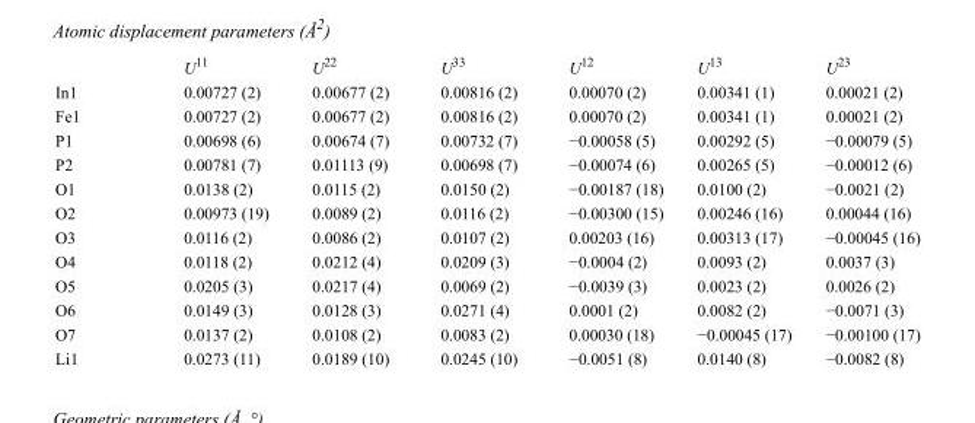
<table><thead><tr><td></td><td>U<sup>11</sup></td><td>U<sup>22</sup></td><td>U<sup>33</sup></td><td>U<sup>12</sup></td><td>U<sup>13</sup></td><td>U<sup>23</sup></td></tr></thead><tbody><tr><td>In1</td><td>0.00727 (2)</td><td>0.00677 (2)</td><td>0.00816 (2)</td><td>0.00070 (2)</td><td>0.00341 (1)</td><td>0.00021 (2)</td></tr><tr><td>Fe1</td><td>0.00727 (2)</td><td>0.00677 (2)</td><td>0.00816 (2)</td><td>0.00070 (2)</td><td>0.00341 (1)</td><td>0.00021 (2)</td></tr><tr><td>P1</td><td>0.00698 (6)</td><td>0.00674 (7)</td><td>0.00732 (7)</td><td>−0.00058 (5)</td><td>0.00292 (5)</td><td>−0.00079 (5)</td></tr><tr><td>P2</td><td>0.00781 (7)</td><td>0.01113 (9)</td><td>0.00698 (7)</td><td>−0.00074 (6)</td><td>0.00265 (5)</td><td>−0.00012 (6)</td></tr><tr><td>O1</td><td>0.0138 (2)</td><td>0.0115 (2)</td><td>0.0150 (2)</td><td>−0.00187 (18)</td><td>0.0100 (2)</td><td>−0.0021 (2)</td></tr><tr><td>O2</td><td>0.00973 (19)</td><td>0.0089 (2)</td><td>0.0116 (2)</td><td>−0.00300 (15)</td><td>0.00246 (16)</td><td>0.00044 (16)</td></tr><tr><td>O3</td><td>0.0116 (2)</td><td>0.0086 (2)</td><td>0.0107 (2)</td><td>0.00203 (16)</td><td>0.00313 (17)</td><td>−0.00045 (16)</td></tr><tr><td>O4</td><td>0.0118 (2)</td><td>0.0212 (4)</td><td>0.0209 (3)</td><td>−0.0004 (2)</td><td>0.0093 (2)</td><td>0.0037 (3)</td></tr><tr><td>O5</td><td>0.0205 (3)</td><td>0.0217 (4)</td><td>0.0069 (2)</td><td>−0.0039 (3)</td><td>0.0023 (2)</td><td>0.0026 (2)</td></tr><tr><td>O6</td><td>0.0149 (3)</td><td>0.0128 (3)</td><td>0.0271 (4)</td><td>0.0001 (2)</td><td>0.0082 (2)</td><td>−0.0071 (3)</td></tr><tr><td>O7</td><td>0.0137 (2)</td><td>0.0108 (2)</td><td>0.0083 (2)</td><td>0.00030 (18)</td><td>−0.00045 (17)</td><td>−0.00100 (17)</td></tr><tr><td>Li1</td><td>0.0273 (11)</td><td>0.0189 (10)</td><td>0.0245 (10)</td><td>−0.0051 (8)</td><td>0.0140 (8)</td><td>−0.0082 (8)</td></tr></tbody></table>